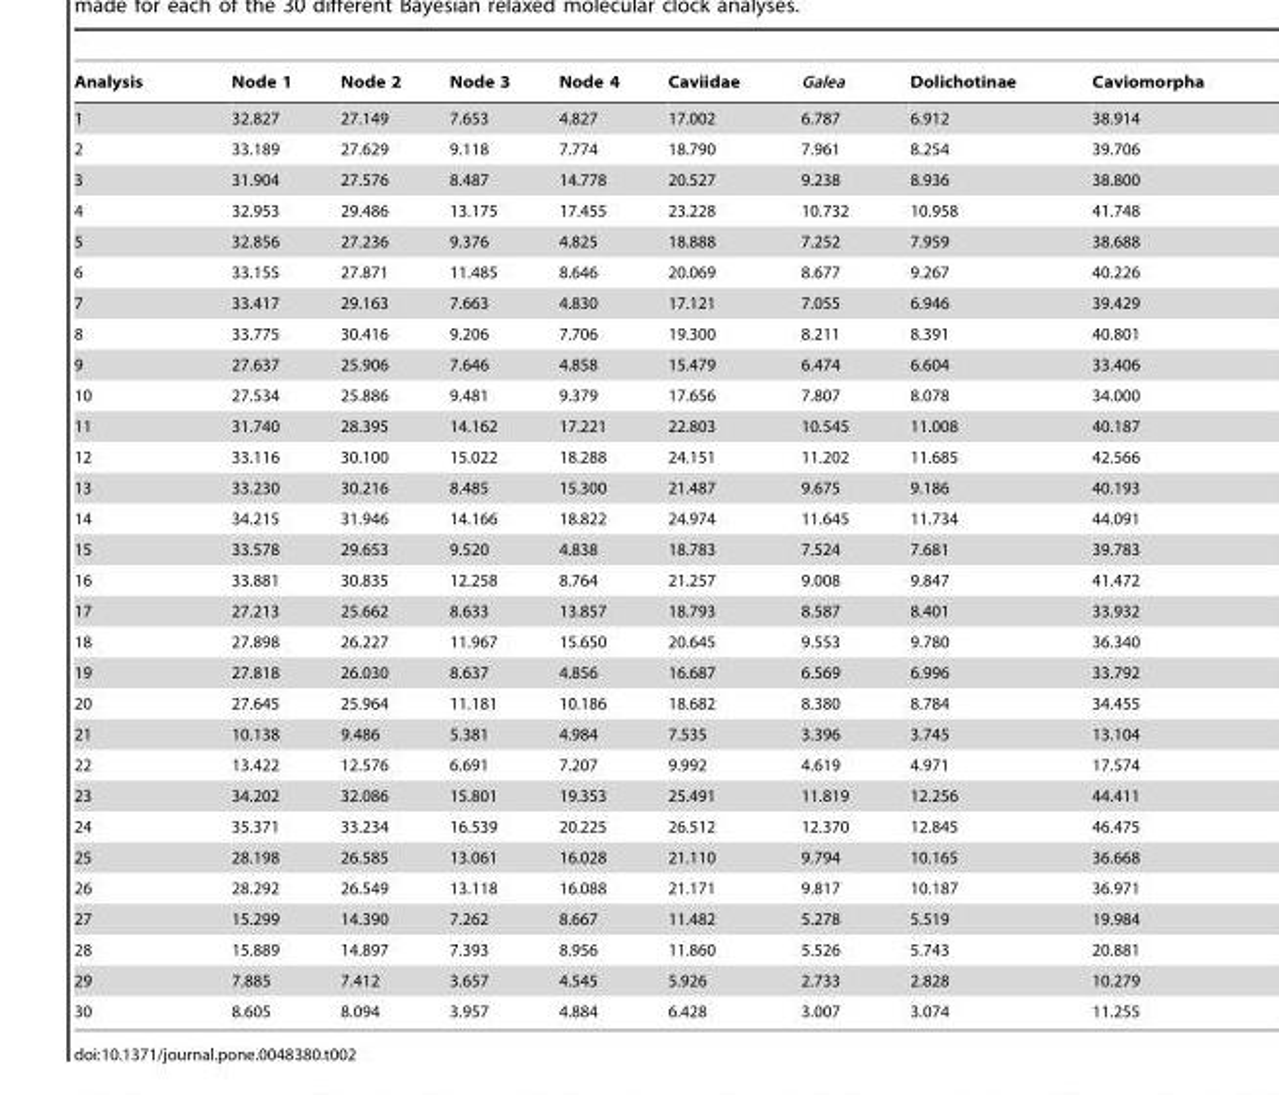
<table><thead><tr><td>Analysis</td><td>Node 1</td><td>Node 2</td><td>Node 3</td><td>Node 4</td><td>Caviidae</td><td>Galea</td><td>Dolichotinae</td><td>Caviomorpha</td></tr></thead><tbody><tr><td>1</td><td>32.827</td><td>27.149</td><td>7.653</td><td>4.827</td><td>17.002</td><td>6.787</td><td>6.912</td><td>38.914</td></tr><tr><td>2</td><td>33.189</td><td>27.629</td><td>9.118</td><td>7.774</td><td>18.790</td><td>7.961</td><td>8.254</td><td>39.706</td></tr><tr><td>3</td><td>31.904</td><td>27.576</td><td>8.487</td><td>14.778</td><td>20.527</td><td>9.238</td><td>8.936</td><td>38.800</td></tr><tr><td>4</td><td>32.953</td><td>29.486</td><td>13.175</td><td>17.455</td><td>23.228</td><td>10.732</td><td>10.958</td><td>41.748</td></tr><tr><td>5</td><td>32.856</td><td>27.236</td><td>9.376</td><td>4.825</td><td>18.888</td><td>7.252</td><td>7.959</td><td>38.688</td></tr><tr><td>6</td><td>33.155</td><td>27.871</td><td>11.485</td><td>8.646</td><td>20.069</td><td>8.677</td><td>9.267</td><td>40.226</td></tr><tr><td>7</td><td>33.417</td><td>29.163</td><td>7.663</td><td>4.830</td><td>17.121</td><td>7.055</td><td>6.946</td><td>39.429</td></tr><tr><td>8</td><td>33.775</td><td>30.416</td><td>9.206</td><td>7.706</td><td>19.300</td><td>8.211</td><td>8.391</td><td>40.801</td></tr><tr><td>9</td><td>27.637</td><td>25.906</td><td>7.646</td><td>4.858</td><td>15.479</td><td>6.474</td><td>6.604</td><td>33.406</td></tr><tr><td>10</td><td>27.534</td><td>25.886</td><td>9.481</td><td>9.379</td><td>17.656</td><td>7.807</td><td>8.078</td><td>34.000</td></tr><tr><td>11</td><td>31.740</td><td>28.395</td><td>14.162</td><td>17.221</td><td>22.803</td><td>10.545</td><td>11.008</td><td>40.187</td></tr><tr><td>12</td><td>33.116</td><td>30.100</td><td>15.022</td><td>18.288</td><td>24.151</td><td>11.202</td><td>11.685</td><td>42.566</td></tr><tr><td>13</td><td>33.230</td><td>30.216</td><td>8.485</td><td>15.300</td><td>21.487</td><td>9.675</td><td>9.186</td><td>40.193</td></tr><tr><td>14</td><td>34.215</td><td>31.946</td><td>14.166</td><td>18.822</td><td>24.974</td><td>11.645</td><td>11.734</td><td>44.091</td></tr><tr><td>15</td><td>33.578</td><td>29.653</td><td>9.520</td><td>4.838</td><td>18.783</td><td>7.524</td><td>7.681</td><td>39.783</td></tr><tr><td>16</td><td>33.881</td><td>30.835</td><td>12.258</td><td>8.764</td><td>21.257</td><td>9.008</td><td>9.847</td><td>41.472</td></tr><tr><td>17</td><td>27.213</td><td>25.662</td><td>8.633</td><td>13.857</td><td>18.793</td><td>8.587</td><td>8.401</td><td>33.932</td></tr><tr><td>18</td><td>27.898</td><td>26.227</td><td>11.967</td><td>15.650</td><td>20.645</td><td>9.553</td><td>9.780</td><td>36.340</td></tr><tr><td>19</td><td>27.818</td><td>26.030</td><td>8.637</td><td>4.856</td><td>16.687</td><td>6.569</td><td>6.996</td><td>33.792</td></tr><tr><td>20</td><td>27.645</td><td>25.964</td><td>11.181</td><td>10.186</td><td>18.682</td><td>8.380</td><td>8.784</td><td>34.455</td></tr><tr><td>21</td><td>10.138</td><td>9.486</td><td>5.381</td><td>4.984</td><td>7.535</td><td>3.396</td><td>3.745</td><td>13.104</td></tr><tr><td>22</td><td>13.422</td><td>12.576</td><td>6.691</td><td>7.207</td><td>9.992</td><td>4.619</td><td>4.971</td><td>17.574</td></tr><tr><td>23</td><td>34.202</td><td>32.086</td><td>15.801</td><td>19.353</td><td>25.491</td><td>11.819</td><td>12.256</td><td>44.411</td></tr><tr><td>24</td><td>35.371</td><td>33.234</td><td>16.539</td><td>20.225</td><td>26.512</td><td>12.370</td><td>12.845</td><td>46.475</td></tr><tr><td>25</td><td>28.198</td><td>26.585</td><td>13.061</td><td>16.028</td><td>21.110</td><td>9.794</td><td>10.165</td><td>36.668</td></tr><tr><td>26</td><td>28.292</td><td>26.549</td><td>13.118</td><td>16.088</td><td>21.171</td><td>9.817</td><td>10.187</td><td>36.971</td></tr><tr><td>27</td><td>15.299</td><td>14.390</td><td>7.262</td><td>8.667</td><td>11.482</td><td>5.278</td><td>5.519</td><td>19.984</td></tr><tr><td>28</td><td>15.889</td><td>14.897</td><td>7.393</td><td>8.956</td><td>11.860</td><td>5.526</td><td>5.743</td><td>20.881</td></tr><tr><td>29</td><td>7.885</td><td>7.412</td><td>3.657</td><td>4.545</td><td>5.926</td><td>2.733</td><td>2.828</td><td>10.279</td></tr><tr><td>30</td><td>8.605</td><td>8.094</td><td>3.957</td><td>4.884</td><td>6.428</td><td>3.007</td><td>3.074</td><td>11.255</td></tr></tbody></table>